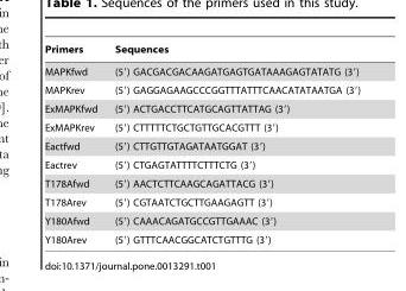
<table><thead><tr><td>Primers</td><td>Sequences</td></tr></thead><tbody><tr><td>MAPKfwd</td><td>(5′) GACGACGACAAGATGAGTGATAAAGAGTATATG (3′)</td></tr><tr><td>MAPKrev</td><td>(5′) GAGGAGAAGCCCGGTTTATTTCAACATATAATGA (3′)</td></tr><tr><td>ExMAPKfwd</td><td>(5′) ACTGACCTTCATGCAGTTATTAG (3′)</td></tr><tr><td>ExMAPKrev</td><td>(5′) CTTTTTCTGCTGTTGCACGTTT (3′)</td></tr><tr><td>Eactfwd</td><td>(5′) CTTGTTGTAGATAATGGAT (3′)</td></tr><tr><td>Eactrev</td><td>(5′) CTGAGTATTTTCTTTCTG (3′)</td></tr><tr><td>T178Afwd</td><td>(5′) AACTCTTCAAGCAGATTACG (3′)</td></tr><tr><td>T178Arev</td><td>(5′) CGTAATCTGCTTGAAGAGTT (3′)</td></tr><tr><td>Y180Afwd</td><td>(5′) CAAACAGATGCCGTTGAAAC (3′)</td></tr><tr><td>Y180Arev</td><td>(5′) GTTTCAACGGCATCTGTTTG (3′)</td></tr></tbody></table>